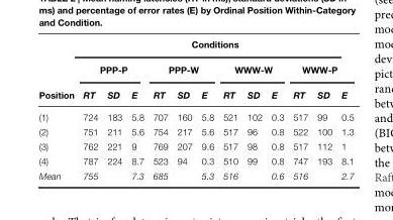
<table><thead><tr><td rowspan="3">Position</td><td colspan="12">Conditions</td></tr><tr><td colspan="3">PPP-P</td><td colspan="3">PPP-W</td><td colspan="3">WWW-W</td><td colspan="3">WWW-P</td></tr><tr><td>RT</td><td>SD</td><td>E</td><td>RT</td><td>SD</td><td>E</td><td>RT</td><td>SD</td><td>E</td><td>RT</td><td>SD</td><td>E</td></tr></thead><tbody><tr><td>(1)</td><td>724</td><td>183</td><td>5.8</td><td>707</td><td>160</td><td>5.8</td><td>521</td><td>102</td><td>0.3</td><td>517</td><td>99</td><td>0.5</td></tr><tr><td>(2)</td><td>751</td><td>211</td><td>5.6</td><td>754</td><td>217</td><td>5.6</td><td>517</td><td>96</td><td>0.8</td><td>522</td><td>100</td><td>1.3</td></tr><tr><td>(3)</td><td>762</td><td>221</td><td>9</td><td>769</td><td>207</td><td>9.6</td><td>517</td><td>98</td><td>0.8</td><td>517</td><td>112</td><td>1</td></tr><tr><td>(4)</td><td>787</td><td>224</td><td>8.7</td><td>523</td><td>94</td><td>0.3</td><td>510</td><td>99</td><td>0.8</td><td>747</td><td>193</td><td>8.1</td></tr><tr><td>Mean</td><td>755</td><td></td><td>7.3</td><td>685</td><td></td><td>5.3</td><td>516</td><td></td><td>0.6</td><td>516</td><td></td><td>2.7</td></tr></tbody></table>